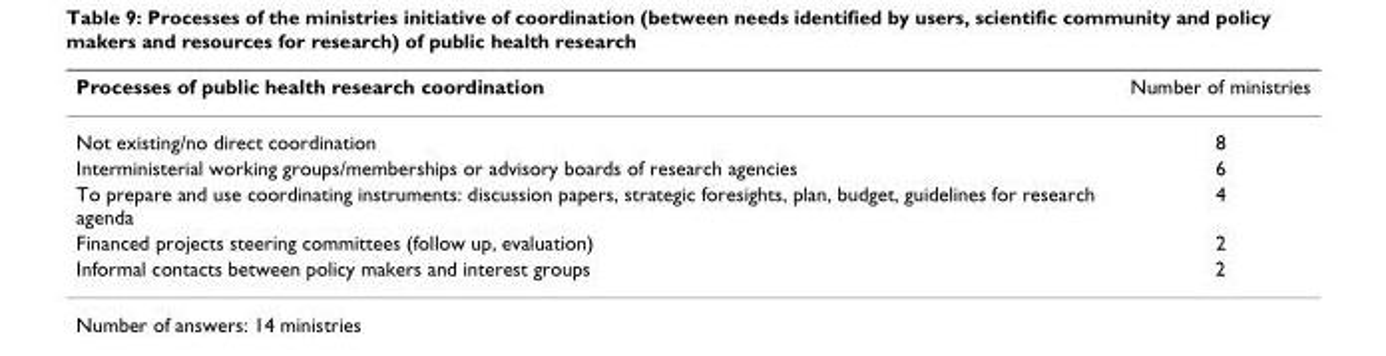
<table><thead><tr><td>Processes of public health research coordination</td><td>Number of ministries</td></tr></thead><tbody><tr><td>Not existing/no direct coordination</td><td>8</td></tr><tr><td>Interministerial working groups/memberships or advisory boards of research agencies</td><td>6</td></tr><tr><td>To prepare and use coordinating instruments: discussion papers, strategic foresights, plan, budget, guidelines for research agenda</td><td>4</td></tr><tr><td>Financed projects steering committees (follow up, evaluation)</td><td>2</td></tr><tr><td>Informal contacts between policy makers and interest groups</td><td>2</td></tr></tbody></table>